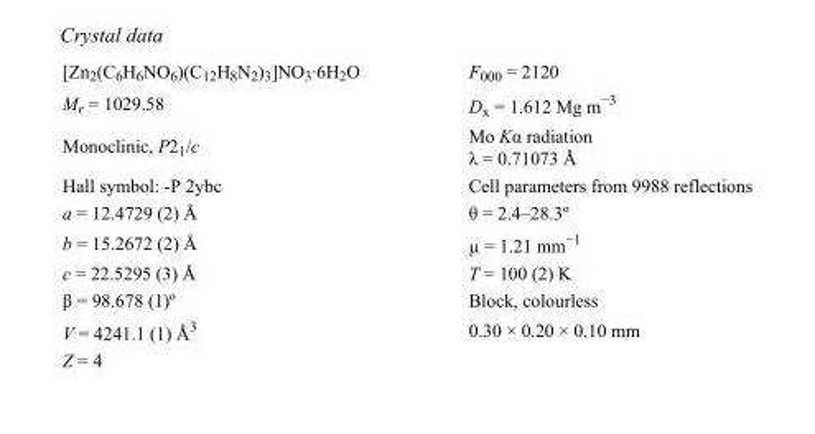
<table><tbody><tr><td>[Zn<sub>2</sub>(C<sub>6</sub>H<sub>6</sub>NO<sub>6</sub>)(C<sub>12</sub>H<sub>8</sub>N<sub>2</sub>)<sub>3</sub>]NO<sub>3</sub>·6H<sub>2</sub>O</td><td>F000 = 2120</td></tr><tr><td>M<sub>r</sub> = 1029.58</td><td>D<sub>x</sub> = 1.612 Mg m<sup>−3</sup></td></tr><tr><td>Monoclinic, P2<sub>1</sub>/c</td><td>Mo Kα radiation λ = 0.71073 Å</td></tr><tr><td>Hall symbol: -P 2ybc</td><td>Cell parameters from 9988 reflections</td></tr><tr><td>a = 12.4729 (2) Å</td><td>θ = 2.4–28.3º</td></tr><tr><td>b = 15.2672 (2) Å</td><td>µ = 1.21 mm<sup>−1</sup></td></tr><tr><td>c = 22.5295 (3) Å</td><td>T = 100 (2) K</td></tr><tr><td>β = 98.678 (1)º</td><td>Block, colourless</td></tr><tr><td>V = 4241.1 (1) Å<sup>3</sup></td><td>0.30 × 0.20 × 0.10 mm</td></tr><tr><td>Z = 4</td><td></td></tr></tbody></table>